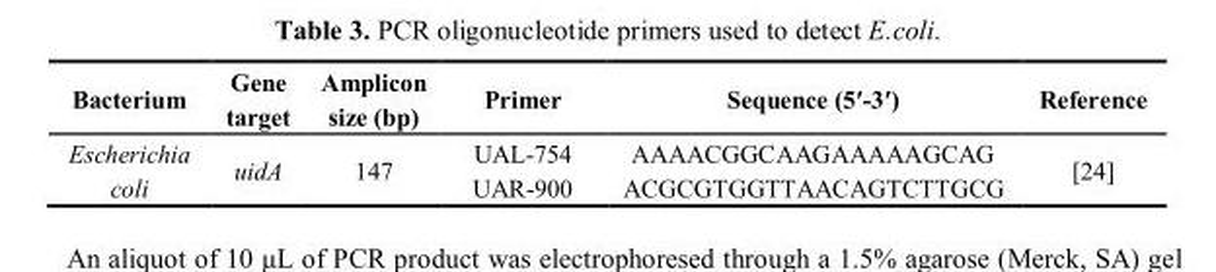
<table><thead><tr><td>Bacterium</td><td>Gene target</td><td>Amplicon size (bp)</td><td>Primer</td><td>Sequence (5′-3′)</td><td>Reference</td></tr></thead><tbody><tr><td rowspan="2">Escherichia coli</td><td rowspan="2">uidA</td><td rowspan="2">147</td><td>UAL-754</td><td>AAAACGGCAAGAAAAAGCAG</td><td rowspan="2">[24]</td></tr><tr><td>UAR-900</td><td>ACGCGTGGTTAACAGTCTTGCG</td></tr></tbody></table>